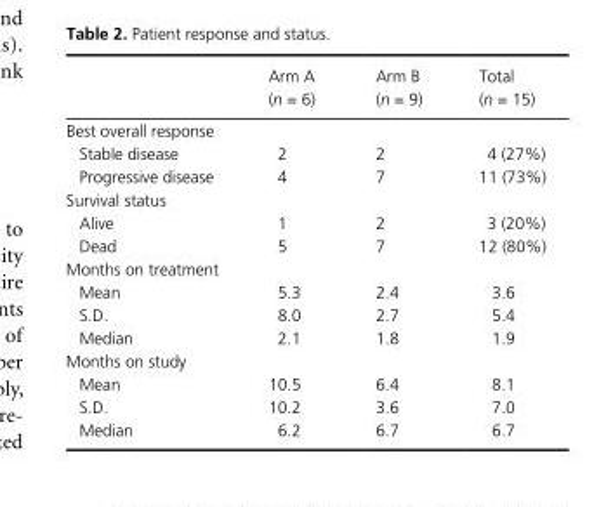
<table><thead><tr><td></td><td>Arm A (n = 6)</td><td>Arm B (n = 9)</td><td>Total (n = 15)</td></tr></thead><tbody><tr><td colspan="4">Best overall response</td></tr><tr><td>Stable disease</td><td>2</td><td>2</td><td>4 (27%)</td></tr><tr><td>Progressive disease</td><td>4</td><td>7</td><td>11 (73%)</td></tr><tr><td colspan="4">Survival status</td></tr><tr><td>Alive</td><td>1</td><td>2</td><td>3 (20%)</td></tr><tr><td>Dead</td><td>5</td><td>7</td><td>12 (80%)</td></tr><tr><td colspan="4">Months on treatment</td></tr><tr><td>Mean</td><td>5.3</td><td>2.4</td><td>3.6</td></tr><tr><td>S.D.</td><td>8.0</td><td>2.7</td><td>5.4</td></tr><tr><td>Median</td><td>2.1</td><td>1.8</td><td>1.9</td></tr><tr><td colspan="4">Months on study</td></tr><tr><td>Mean</td><td>10.5</td><td>6.4</td><td>8.1</td></tr><tr><td>S.D.</td><td>10.2</td><td>3.6</td><td>7.0</td></tr><tr><td>Median</td><td>6.2</td><td>6.7</td><td>6.7</td></tr></tbody></table>